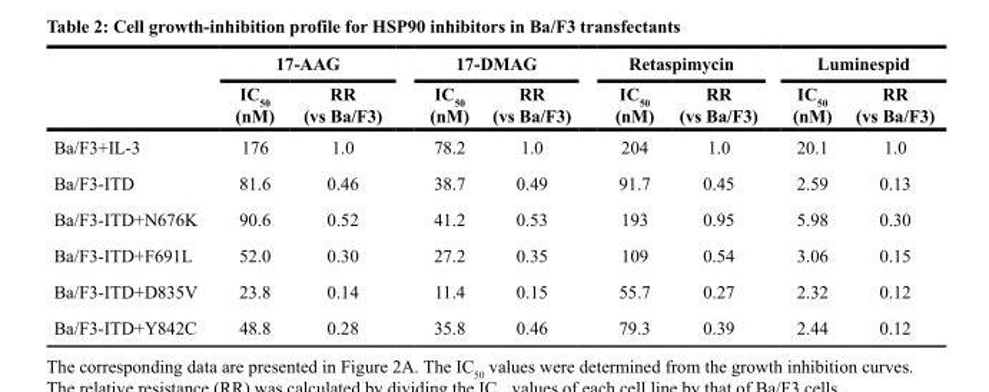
<table><thead><tr><td rowspan="2"></td><td colspan="2">17-AAG</td><td colspan="2">17-DMAG</td><td colspan="2">Retaspimycin</td><td colspan="2">Luminespid</td></tr><tr><td>IC<sub>50</sub> (nM)</td><td>RR (vs Ba/F3)</td><td>IC<sub>50</sub> (nM)</td><td>RR (vs Ba/F3)</td><td>IC<sub>50</sub> (nM)</td><td>RR (vs Ba/F3)</td><td>IC<sub>50</sub> (nM)</td><td>RR (vs Ba/F3)</td></tr></thead><tbody><tr><td>Ba/F3+IL-3</td><td>176</td><td>1.0</td><td>78.2</td><td>1.0</td><td>204</td><td>1.0</td><td>20.1</td><td>1.0</td></tr><tr><td>Ba/F3-ITD</td><td>81.6</td><td>0.46</td><td>38.7</td><td>0.49</td><td>91.7</td><td>0.45</td><td>2.59</td><td>0.13</td></tr><tr><td>Ba/F3-ITD+N676K</td><td>90.6</td><td>0.52</td><td>41.2</td><td>0.53</td><td>193</td><td>0.95</td><td>5.98</td><td>0.30</td></tr><tr><td>Ba/F3-ITD+F691L</td><td>52.0</td><td>0.30</td><td>27.2</td><td>0.35</td><td>109</td><td>0.54</td><td>3.06</td><td>0.15</td></tr><tr><td>Ba/F3-ITD+D835V</td><td>23.8</td><td>0.14</td><td>11.4</td><td>0.15</td><td>55.7</td><td>0.27</td><td>2.32</td><td>0.12</td></tr><tr><td>Ba/F3-ITD+Y842C</td><td>48.8</td><td>0.28</td><td>35.8</td><td>0.46</td><td>79.3</td><td>0.39</td><td>2.44</td><td>0.12</td></tr></tbody></table>